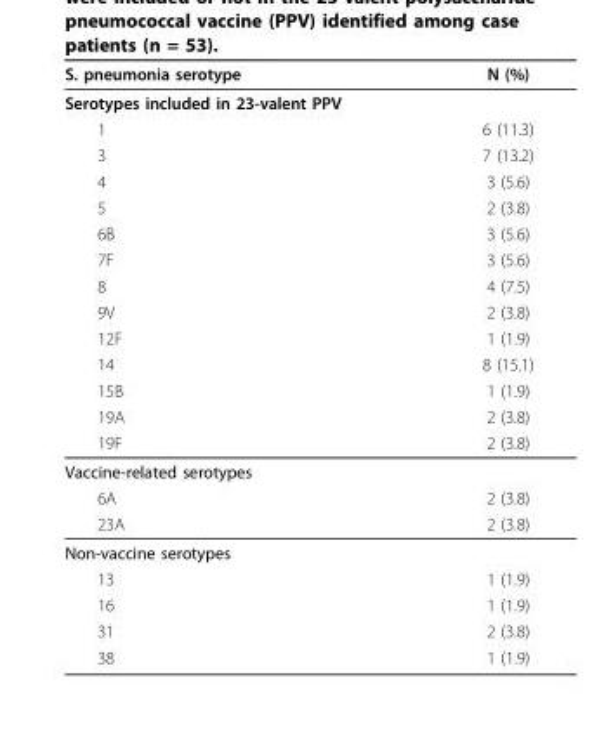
<table><thead><tr><td>S. pneumonia serotype</td><td>N (%)</td></tr></thead><tbody><tr><td colspan="2">Serotypes included in 23-valent PPV</td></tr><tr><td>1</td><td>6 (11.3)</td></tr><tr><td>3</td><td>7 (13.2)</td></tr><tr><td>4</td><td>3 (5.6)</td></tr><tr><td>5</td><td>2 (3.8)</td></tr><tr><td>6B</td><td>3 (5.6)</td></tr><tr><td>7F</td><td>3 (5.6)</td></tr><tr><td>8</td><td>4 (7.5)</td></tr><tr><td>9V</td><td>2 (3.8)</td></tr><tr><td>12F</td><td>1 (1.9)</td></tr><tr><td>14</td><td>8 (15.1)</td></tr><tr><td>15B</td><td>1 (1.9)</td></tr><tr><td>19A</td><td>2 (3.8)</td></tr><tr><td>19F</td><td>2 (3.8)</td></tr><tr><td colspan="2">Vaccine-related serotypes</td></tr><tr><td>6A</td><td>2 (3.8)</td></tr><tr><td>23A</td><td>2 (3.8)</td></tr><tr><td colspan="2">Non-vaccine serotypes</td></tr><tr><td>13</td><td>1 (1.9)</td></tr><tr><td>16</td><td>1 (1.9)</td></tr><tr><td>31</td><td>2 (3.8)</td></tr><tr><td>38</td><td>1 (1.9)</td></tr></tbody></table>